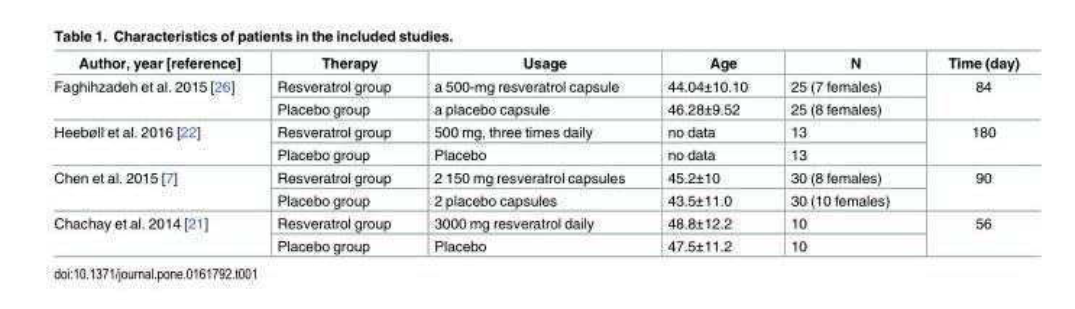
<table><thead><tr><td>Author, year [reference]</td><td>Therapy</td><td>Usage</td><td>Age</td><td>N</td><td>Time (day)</td></tr></thead><tbody><tr><td rowspan="2">Faghihzadeh et al. 2015 [26]</td><td>Resveratrol group</td><td>a 500-mg resveratrol capsule</td><td>44.04±10.10</td><td>25 (7 females)</td><td rowspan="2">84</td></tr><tr><td>Placebo group</td><td>a placebo capsule</td><td>46.28±9.52</td><td>25 (8 females)</td></tr><tr><td rowspan="2">Heebøll et al. 2016 [22]</td><td>Resveratrol group</td><td>500 mg, three times daily</td><td>no data</td><td>13</td><td rowspan="2">180</td></tr><tr><td>Placebo group</td><td>Placebo</td><td>no data</td><td>13</td></tr><tr><td rowspan="2">Chen et al. 2015 [7]</td><td>Resveratrol group</td><td>2 150 mg resveratrol capsules</td><td>45.2±10</td><td>30 (8 females)</td><td rowspan="2">90</td></tr><tr><td>Placebo group</td><td>2 placebo capsules</td><td>43.5±11.0</td><td>30 (10 females)</td></tr><tr><td rowspan="2">Chachay et al. 2014 [21]</td><td>Resveratrol group</td><td>3000 mg resveratrol daily</td><td>48.8±12.2</td><td>10</td><td rowspan="2">56</td></tr><tr><td>Placebo group</td><td>Placebo</td><td>47.5±11.2</td><td>10</td></tr></tbody></table>